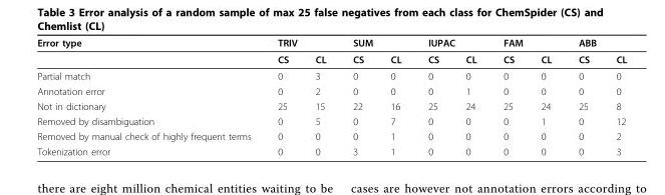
<table><thead><tr><td rowspan="2">Error type</td><td colspan="2">TRIV</td><td colspan="2">SUM</td><td colspan="2">IUPAC</td><td colspan="2">FAM</td><td colspan="2">ABB</td></tr><tr><td>CS</td><td>CL</td><td>CS</td><td>CL</td><td>CS</td><td>CL</td><td>CS</td><td>CL</td><td>CS</td><td>CL</td></tr></thead><tbody><tr><td>Partial match</td><td>0</td><td>3</td><td>0</td><td>0</td><td>0</td><td>0</td><td>0</td><td>0</td><td>0</td><td>0</td></tr><tr><td>Annotation error</td><td>0</td><td>2</td><td>0</td><td>0</td><td>0</td><td>1</td><td>0</td><td>0</td><td>0</td><td>0</td></tr><tr><td>Not in dictionary</td><td>25</td><td>15</td><td>22</td><td>16</td><td>25</td><td>24</td><td>25</td><td>24</td><td>25</td><td>8</td></tr><tr><td>Removed by disambiguation</td><td>0</td><td>5</td><td>0</td><td>7</td><td>0</td><td>0</td><td>0</td><td>1</td><td>0</td><td>12</td></tr><tr><td>Removed by manual check of highly frequent terms</td><td>0</td><td>0</td><td>0</td><td>1</td><td>0</td><td>0</td><td>0</td><td>0</td><td>0</td><td>2</td></tr><tr><td>Tokenization error</td><td>0</td><td>0</td><td>3</td><td>1</td><td>0</td><td>0</td><td>0</td><td>0</td><td>0</td><td>3</td></tr></tbody></table>